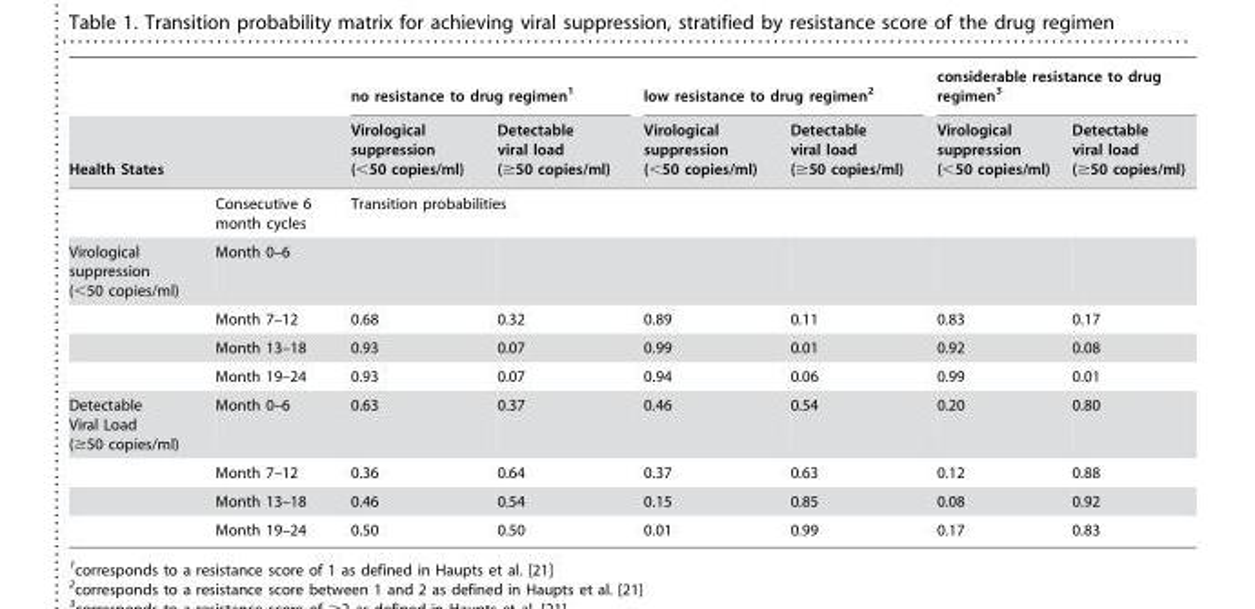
<table><thead><tr><td></td><td></td><td colspan="2">no resistance to drug regimen<sup>1</sup></td><td colspan="2">low resistance to drug regimen<sup>2</sup></td><td colspan="2">considerable resistance to drug regimen<sup>3</sup></td></tr><tr><td colspan="2">Health States</td><td>Virological suppression (&lt;50 copies/ml)</td><td>Detectable viral load (≥50 copies/ml)</td><td>Virological suppression (&lt;50 copies/ml)</td><td>Detectable viral load (≥50 copies/ml)</td><td>Virological suppression (&lt;50 copies/ml)</td><td>Detectable viral load (≥50 copies/ml)</td></tr></thead><tbody><tr><td></td><td>Consecutive 6 month cycles</td><td colspan="6">Transition probabilities</td></tr><tr><td rowspan="4">Virological suppression (&lt;50 copies/ml)</td><td>Month 0–6</td><td></td><td></td><td></td><td></td><td></td><td></td></tr><tr><td>Month 7–12</td><td>0.68</td><td>0.32</td><td>0.89</td><td>0.11</td><td>0.83</td><td>0.17</td></tr><tr><td>Month 13–18</td><td>0.93</td><td>0.07</td><td>0.99</td><td>0.01</td><td>0.92</td><td>0.08</td></tr><tr><td>Month 19–24</td><td>0.93</td><td>0.07</td><td>0.94</td><td>0.06</td><td>0.99</td><td>0.01</td></tr><tr><td rowspan="4">Detectable Viral Load (≥50 copies/ml)</td><td>Month 0–6</td><td>0.63</td><td>0.37</td><td>0.46</td><td>0.54</td><td>0.20</td><td>0.80</td></tr><tr><td>Month 7–12</td><td>0.36</td><td>0.64</td><td>0.37</td><td>0.63</td><td>0.12</td><td>0.88</td></tr><tr><td>Month 13–18</td><td>0.46</td><td>0.54</td><td>0.15</td><td>0.85</td><td>0.08</td><td>0.92</td></tr><tr><td>Month 19–24</td><td>0.50</td><td>0.50</td><td>0.01</td><td>0.99</td><td>0.17</td><td>0.83</td></tr></tbody></table>